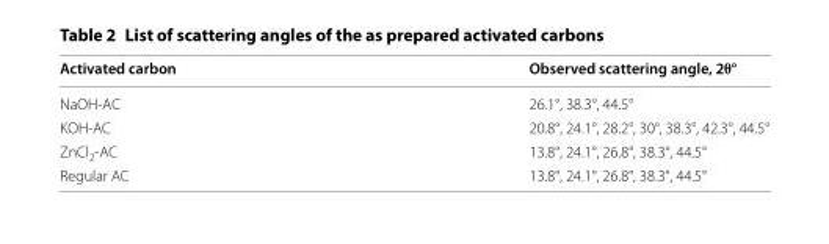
<table><thead><tr><td>Activated carbon</td><td>Observed scattering angle, 2θ°</td></tr></thead><tbody><tr><td>NaOH-AC</td><td>26.1°, 38.3°, 44.5°</td></tr><tr><td>KOH-AC</td><td>20.8°, 24.1°, 28.2°, 30°, 38.3°, 42.3°, 44.5°</td></tr><tr><td>ZnCl<sub>2</sub>-AC</td><td>13.8°, 24.1°, 26.8°, 38.3°, 44.5°</td></tr><tr><td>Regular AC</td><td>13.8°, 24.1°, 26.8°, 38.3°, 44.5°</td></tr></tbody></table>